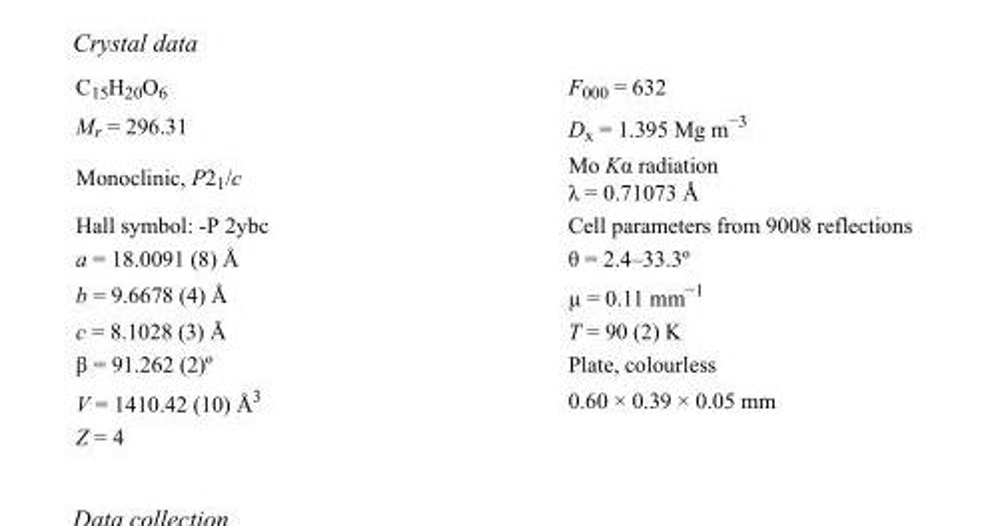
<table><tbody><tr><td>C<sub>15</sub>H<sub>20</sub>O<sub>6</sub></td><td>F<sub>000</sub> = 632</td></tr><tr><td>M<sub>r</sub> = 296.31</td><td>D<sub>x</sub> = 1.395 Mg m<sup>−3</sup></td></tr><tr><td>Monoclinic, P2<sub>1</sub>/c</td><td>Mo Kα radiation λ = 0.71073 Å</td></tr><tr><td>Hall symbol: -P 2ybc</td><td>Cell parameters from 9008 reflections</td></tr><tr><td>a = 18.0091 (8) Å</td><td>θ = 2.4–33.3º</td></tr><tr><td>b = 9.6678 (4) Å</td><td>µ = 0.11 mm<sup>−1</sup></td></tr><tr><td>c = 8.1028 (3) Å</td><td>T = 90 (2) K</td></tr><tr><td>β = 91.262 (2)º</td><td>Plate, colourless</td></tr><tr><td>V = 1410.42 (10) Å<sup>3</sup></td><td>0.60 × 0.39 × 0.05 mm</td></tr><tr><td>Z = 4</td><td></td></tr></tbody></table>